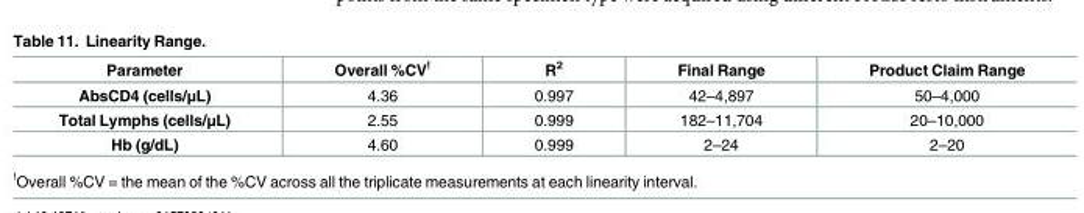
<table><thead><tr><td>Parameter</td><td>Overall %CV<sup>!</sup></td><td>R<sup>2</sup></td><td>Final Range</td><td>Product Claim Range</td></tr></thead><tbody><tr><td>AbsCD4 (cells/μL)</td><td>4.36</td><td>0.997</td><td>42–4,897</td><td>50–4,000</td></tr><tr><td>Total Lymphs (cells/μL)</td><td>2.55</td><td>0.999</td><td>182–11,704</td><td>20–10,000</td></tr><tr><td>Hb (g/dL)</td><td>4.60</td><td>0.999</td><td>2–24</td><td>2–20</td></tr></tbody></table>